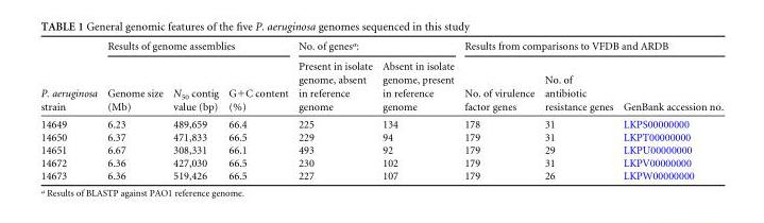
<table><thead><tr><td rowspan="2">P. aeruginosa strain</td><td colspan="3">Results of genome assemblies</td><td colspan="2">No. of genes<sup>a</sup>:</td><td colspan="3">Results from comparisons to VFDB and ARDB</td></tr><tr><td>Genome size (Mb)</td><td>N<sub>50</sub> contig value (bp)</td><td>G+C content (%)</td><td>Present in isolate genome, absent in reference genome</td><td>Absent in isolate genome, present in reference genome</td><td>No. of virulence factor genes</td><td>No. of antibiotic resistance genes</td><td>GenBank accession no.</td></tr></thead><tbody><tr><td>14649</td><td>6.23</td><td>489,659</td><td>66.4</td><td>225</td><td>134</td><td>178</td><td>31</td><td>LKPS00000000</td></tr><tr><td>14650</td><td>6.37</td><td>471,833</td><td>66.5</td><td>229</td><td>94</td><td>179</td><td>31</td><td>LKPT00000000</td></tr><tr><td>14651</td><td>6.67</td><td>308,331</td><td>66.1</td><td>493</td><td>92</td><td>179</td><td>29</td><td>LKPU00000000</td></tr><tr><td>14672</td><td>6.36</td><td>427,030</td><td>66.5</td><td>230</td><td>102</td><td>179</td><td>31</td><td>LKPV00000000</td></tr><tr><td>14673</td><td>6.36</td><td>519,426</td><td>66.5</td><td>227</td><td>107</td><td>179</td><td>26</td><td>LKPW00000000</td></tr></tbody></table>